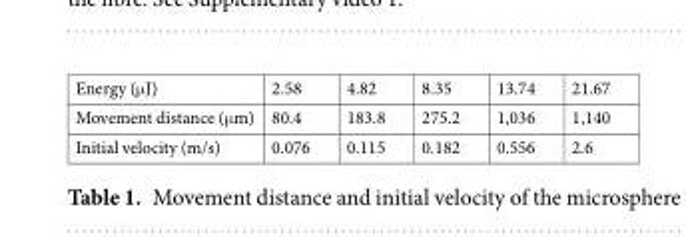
<table><tbody><tr><td>Energy (μJ)</td><td>2.58</td><td>4.82</td><td>8.35</td><td>13.74</td><td>21.67</td></tr><tr><td>Movement distance (μm)</td><td>80.4</td><td>183.8</td><td>275.2</td><td>1,036</td><td>1,140</td></tr><tr><td>Initial velocity (m/s)</td><td>0.076</td><td>0.115</td><td>0.182</td><td>0.556</td><td>2.6</td></tr></tbody></table>